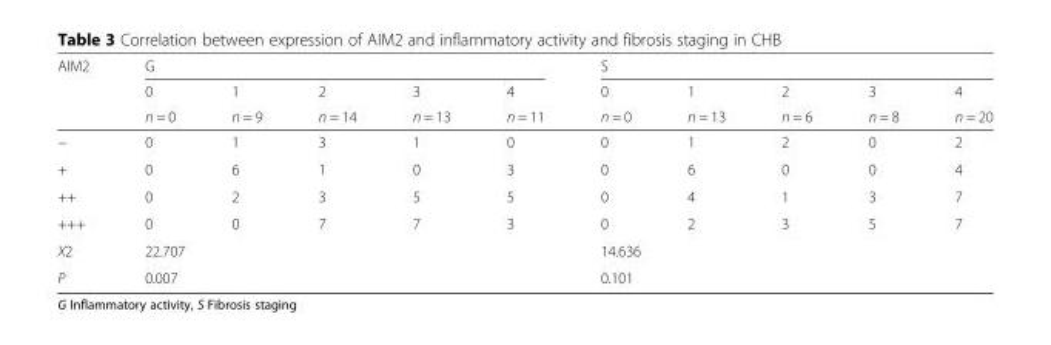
<table><thead><tr><td rowspan="3">AIM2</td><td colspan="5">G</td><td colspan="5">S</td></tr><tr><td rowspan="2">0 n = 0</td><td rowspan="2">1 n = 9</td><td rowspan="2">2 n = 14</td><td rowspan="2">3 n = 13</td><td rowspan="2">4 n = 11</td><td rowspan="2">0 n = 0</td><td rowspan="2">1 n = 13</td><td rowspan="2">2 n = 6</td><td rowspan="2">3 n = 8</td><td rowspan="2">4 n = 20</td></tr><tr></tr></thead><tbody><tr><td>−</td><td>0</td><td>1</td><td>3</td><td>1</td><td>0</td><td>0</td><td>1</td><td>2</td><td>0</td><td>2</td></tr><tr><td>+</td><td>0</td><td>6</td><td>1</td><td>0</td><td>3</td><td>0</td><td>6</td><td>0</td><td>0</td><td>4</td></tr><tr><td>++</td><td>0</td><td>2</td><td>3</td><td>5</td><td>5</td><td>0</td><td>4</td><td>1</td><td>3</td><td>7</td></tr><tr><td>+++</td><td>0</td><td>0</td><td>7</td><td>7</td><td>3</td><td>0</td><td>2</td><td>3</td><td>5</td><td>7</td></tr><tr><td>X2</td><td colspan="5">22.707</td><td colspan="5">14.636</td></tr><tr><td>P</td><td colspan="5">0.007</td><td colspan="5">0.101</td></tr></tbody></table>